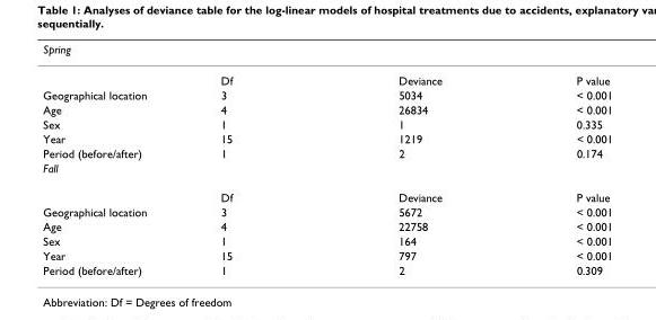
<table><thead><tr><td>Spring</td><td></td><td></td><td></td></tr></thead><tbody><tr><td></td><td>Df</td><td>Deviance</td><td>P value</td></tr><tr><td>Geographical location</td><td>3</td><td>5034</td><td>&lt; 0.001</td></tr><tr><td>Age</td><td>4</td><td>26834</td><td>&lt; 0.001</td></tr><tr><td>Sex</td><td>1</td><td>1</td><td>0.335</td></tr><tr><td>Year</td><td>15</td><td>1219</td><td>&lt; 0.001</td></tr><tr><td>Period (before/after)</td><td>1</td><td>2</td><td>0.174</td></tr><tr><td colspan="4">Fall</td></tr><tr><td></td><td>Df</td><td>Deviance</td><td>P value</td></tr><tr><td>Geographical location</td><td>3</td><td>5672</td><td>&lt; 0.001</td></tr><tr><td>Age</td><td>4</td><td>22758</td><td>&lt; 0.001</td></tr><tr><td>Sex</td><td>1</td><td>164</td><td>&lt; 0.001</td></tr><tr><td>Year</td><td>15</td><td>797</td><td>&lt; 0.001</td></tr><tr><td>Period (before/after)</td><td>1</td><td>2</td><td>0.309</td></tr></tbody></table>